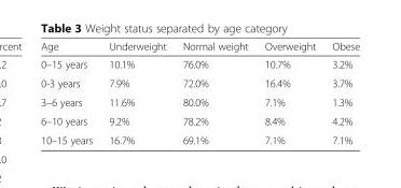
<table><thead><tr><td>Age</td><td>Underweight</td><td>Normal weight</td><td>Overweight</td><td>Obese</td></tr></thead><tbody><tr><td>0–15 years</td><td>10.1%</td><td>76.0%</td><td>10.7%</td><td>3.2%</td></tr><tr><td>0-3 years</td><td>7.9%</td><td>72.0%</td><td>16.4%</td><td>3.7%</td></tr><tr><td>3–6 years</td><td>11.6%</td><td>80.0%</td><td>7.1%</td><td>1.3%</td></tr><tr><td>6–10 years</td><td>9.2%</td><td>78.2%</td><td>8.4%</td><td>4.2%</td></tr><tr><td>10–15 years</td><td>16.7%</td><td>69.1%</td><td>7.1%</td><td>7.1%</td></tr></tbody></table>